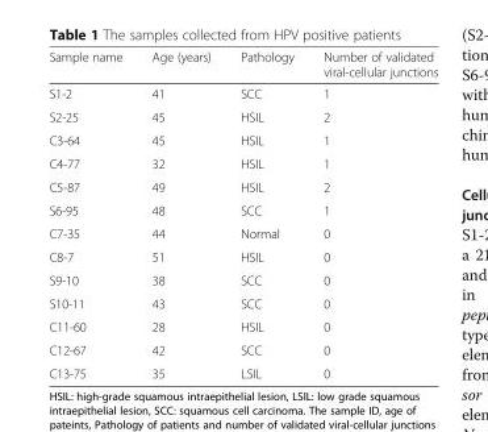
<table><thead><tr><td>Sample name</td><td>Age (years)</td><td>Pathology</td><td>Number of validated viral-cellular junctions</td></tr></thead><tbody><tr><td>S1-2</td><td>41</td><td>SCC</td><td>1</td></tr><tr><td>S2-25</td><td>45</td><td>HSIL</td><td>2</td></tr><tr><td>C3-64</td><td>45</td><td>HSIL</td><td>1</td></tr><tr><td>C4-77</td><td>32</td><td>HSIL</td><td>1</td></tr><tr><td>C5-87</td><td>49</td><td>HSIL</td><td>2</td></tr><tr><td>S6-95</td><td>48</td><td>SCC</td><td>1</td></tr><tr><td>C7-35</td><td>44</td><td>Normal</td><td>0</td></tr><tr><td>C8-7</td><td>51</td><td>HSIL</td><td>0</td></tr><tr><td>S9-10</td><td>38</td><td>SCC</td><td>0</td></tr><tr><td>S10-11</td><td>43</td><td>SCC</td><td>0</td></tr><tr><td>C11-60</td><td>28</td><td>HSIL</td><td>0</td></tr><tr><td>C12-67</td><td>42</td><td>SCC</td><td>0</td></tr><tr><td>C13-75</td><td>35</td><td>LSIL</td><td>0</td></tr></tbody></table>